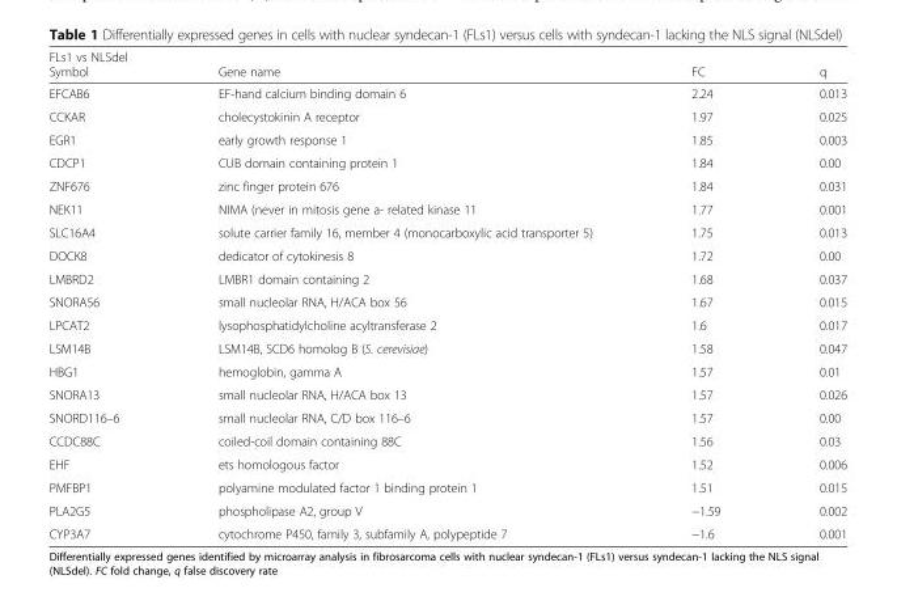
<table><thead><tr><td colspan="4">FLs1 vs NLSdel</td></tr><tr><td>Symbol</td><td>Gene name</td><td>FC</td><td>q</td></tr></thead><tbody><tr><td>EFCAB6</td><td>EF-hand calcium binding domain 6</td><td>2.24</td><td>0.013</td></tr><tr><td>CCKAR</td><td>cholecystokinin A receptor</td><td>1.97</td><td>0.025</td></tr><tr><td>EGR1</td><td>early growth response 1</td><td>1.85</td><td>0.003</td></tr><tr><td>CDCP1</td><td>CUB domain containing protein 1</td><td>1.84</td><td>0.00</td></tr><tr><td>ZNF676</td><td>zinc finger protein 676</td><td>1.84</td><td>0.031</td></tr><tr><td>NEK11</td><td>NIMA (never in mitosis gene a- related kinase 11</td><td>1.77</td><td>0.001</td></tr><tr><td>SLC16A4</td><td>solute carrier family 16, member 4 (monocarboxylic acid transporter 5)</td><td>1.75</td><td>0.013</td></tr><tr><td>DOCK8</td><td>dedicator of cytokinesis 8</td><td>1.72</td><td>0.00</td></tr><tr><td>LMBRD2</td><td>LMBR1 domain containing 2</td><td>1.68</td><td>0.037</td></tr><tr><td>SNORA56</td><td>small nucleolar RNA, H/ACA box 56</td><td>1.67</td><td>0.015</td></tr><tr><td>LPCAT2</td><td>lysophosphatidylcholine acyltransferase 2</td><td>1.6</td><td>0.017</td></tr><tr><td>LSM14B</td><td>LSM14B, SCD6 homolog B (S. cerevisiae)</td><td>1.58</td><td>0.047</td></tr><tr><td>HBG1</td><td>hemoglobin, gamma A</td><td>1.57</td><td>0.01</td></tr><tr><td>SNORA13</td><td>small nucleolar RNA, H/ACA box 13</td><td>1.57</td><td>0.026</td></tr><tr><td>SNORD116–6</td><td>small nucleolar RNA, C/D box 116–6</td><td>1.57</td><td>0.00</td></tr><tr><td>CCDC88C</td><td>coiled-coil domain containing 88C</td><td>1.56</td><td>0.03</td></tr><tr><td>EHF</td><td>ets homologous factor</td><td>1.52</td><td>0.006</td></tr><tr><td>PMFBP1</td><td>polyamine modulated factor 1 binding protein 1</td><td>1.51</td><td>0.015</td></tr><tr><td>PLA2G5</td><td>phospholipase A2, group V</td><td>−1.59</td><td>0.002</td></tr><tr><td>CYP3A7</td><td>cytochrome P450, family 3, subfamily A, polypeptide 7</td><td>−1.6</td><td>0.001</td></tr></tbody></table>